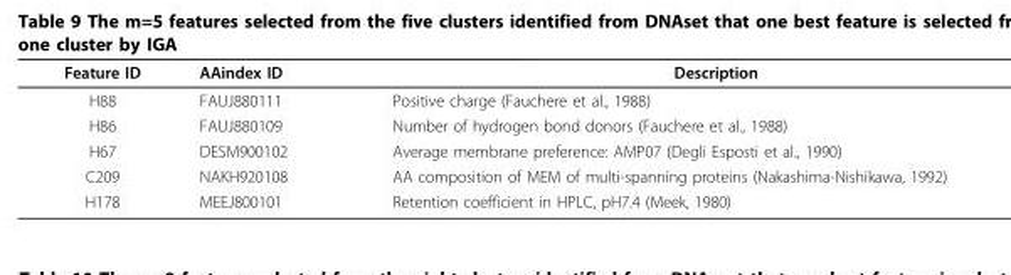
<table><thead><tr><td>Feature ID</td><td>AAindex ID</td><td>Description</td></tr></thead><tbody><tr><td>H88</td><td>FAUJ880111</td><td>Positive charge (Fauchere et al., 1988)</td></tr><tr><td>H86</td><td>FAUJ880109</td><td>Number of hydrogen bond donors (Fauchere et al., 1988)</td></tr><tr><td>H67</td><td>DESM900102</td><td>Average membrane preference: AMP07 (Degli Esposti et al., 1990)</td></tr><tr><td>C209</td><td>NAKH920108</td><td>AA composition of MEM of multi-spanning proteins (Nakashima-Nishikawa, 1992)</td></tr><tr><td>H178</td><td>MEEJ800101</td><td>Retention coefficient in HPLC, pH7.4 (Meek, 1980)</td></tr></tbody></table>